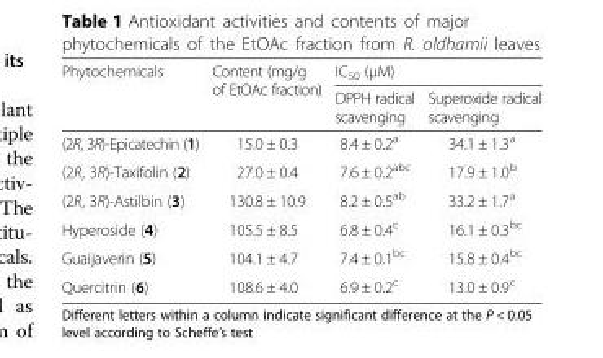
<table><thead><tr><td rowspan="2">Phytochemicals</td><td rowspan="2">Content (mg/g of EtOAc fraction)</td><td colspan="2">IC<sub>50</sub> (μM)</td></tr><tr><td>DPPH radical scavenging</td><td>Superoxide radical scavenging</td></tr></thead><tbody><tr><td>(2R, 3R)-Epicatechin (1)</td><td>15.0 ± 0.3</td><td>8.4 ± 0.2<sup>a</sup></td><td>34.1 ± 1.3<sup>a</sup></td></tr><tr><td>(2R, 3R)-Taxifolin (2)</td><td>27.0 ± 0.4</td><td>7.6 ± 0.2<sup>abc</sup></td><td>17.9 ± 1.0<sup>b</sup></td></tr><tr><td>(2R, 3R)-Astilbin (3)</td><td>130.8 ± 10.9</td><td>8.2 ± 0.5<sup>ab</sup></td><td>33.2 ± 1.7<sup>a</sup></td></tr><tr><td>Hyperoside (4)</td><td>105.5 ± 8.5</td><td>6.8 ± 0.4<sup>c</sup></td><td>16.1 ± 0.3<sup>bc</sup></td></tr><tr><td>Guaijaverin (5)</td><td>104.1 ± 4.7</td><td>7.4 ± 0.1<sup>bc</sup></td><td>15.8 ± 0.4<sup>bc</sup></td></tr><tr><td>Quercitrin (6)</td><td>108.6 ± 4.0</td><td>6.9 ± 0.2<sup>c</sup></td><td>13.0 ± 0.9<sup>c</sup></td></tr></tbody></table>